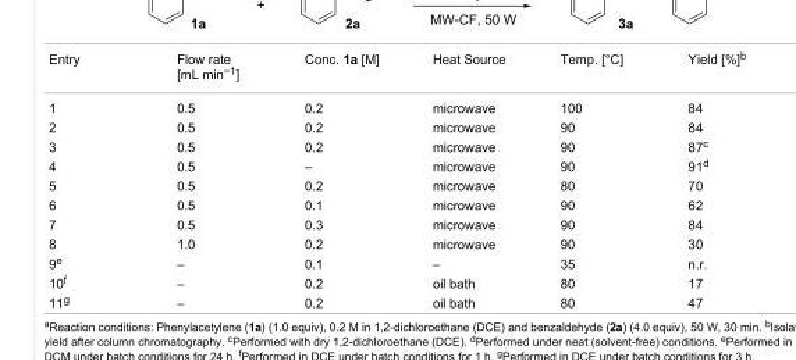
<table><tbody><tr><td>Entry</td><td>Flow rate [mL min<sup>−1</sup>]</td><td>Conc. 1a [M]</td><td>Heat Source</td><td>Temp. [°C]</td><td>Yield [%]<sup>b</sup></td></tr><tr><td>1</td><td>0.5</td><td>0.2</td><td>microwave</td><td>100</td><td>84</td></tr><tr><td>2</td><td>0.5</td><td>0.2</td><td>microwave</td><td>90</td><td>84</td></tr><tr><td>3</td><td>0.5</td><td>0.2</td><td>microwave</td><td>90</td><td>87<sup>c</sup></td></tr><tr><td>4</td><td>0.5</td><td>–</td><td>microwave</td><td>90</td><td>91<sup>d</sup></td></tr><tr><td>5</td><td>0.5</td><td>0.2</td><td>microwave</td><td>80</td><td>70</td></tr><tr><td>6</td><td>0.5</td><td>0.1</td><td>microwave</td><td>90</td><td>62</td></tr><tr><td>7</td><td>0.5</td><td>0.3</td><td>microwave</td><td>90</td><td>84</td></tr><tr><td>8</td><td>1.0</td><td>0.2</td><td>microwave</td><td>90</td><td>30</td></tr><tr><td>9<sup>e</sup></td><td>–</td><td>0.1</td><td>–</td><td>35</td><td>n.r.</td></tr><tr><td>10<sup>f</sup></td><td>–</td><td>0.2</td><td>oil bath</td><td>80</td><td>17</td></tr><tr><td>11<sup>g</sup></td><td>–</td><td>0.2</td><td>oil bath</td><td>80</td><td>47</td></tr></tbody></table>